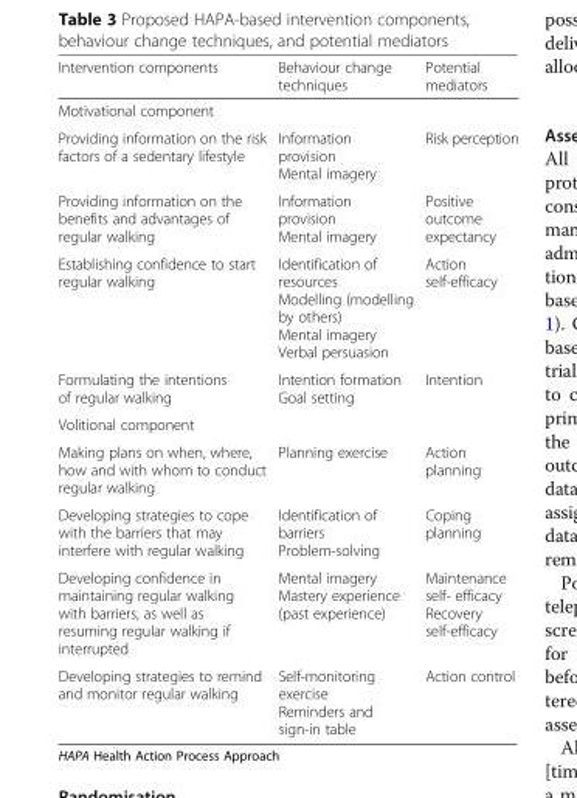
<table><thead><tr><td>Intervention components</td><td>Behaviour change techniques</td><td>Potential mediators</td></tr></thead><tbody><tr><td colspan="3">Motivational component</td></tr><tr><td>Providing information on the risk factors of a sedentary lifestyle</td><td>Information provision Mental imagery</td><td>Risk perception</td></tr><tr><td>Providing information on the benefits and advantages of regular walking</td><td>Information provision Mental imagery</td><td>Positive outcome expectancy</td></tr><tr><td>Establishing confidence to start regular walking</td><td>Identification of resources Modelling (modelling by others) Mental imagery Verbal persuasion</td><td>Action self-efficacy</td></tr><tr><td>Formulating the intentions of regular walking</td><td>Intention formation Goal setting</td><td>Intention</td></tr><tr><td colspan="3">Volitional component</td></tr><tr><td>Making plans on when, where, how and with whom to conduct regular walking</td><td>Planning exercise</td><td>Action planning</td></tr><tr><td>Developing strategies to cope with the barriers that may interfere with regular walking</td><td>Identification of barriers Problem-solving</td><td>Coping planning</td></tr><tr><td>Developing confidence in maintaining regular walking with barriers, as well as resuming regular walking if interrupted</td><td>Mental imagery Mastery experience (past experience)</td><td>Maintenance self- efficacy Recovery self-efficacy</td></tr><tr><td>Developing strategies to remind and monitor regular walking</td><td>Self-monitoring exercise Reminders and sign-in table</td><td>Action control</td></tr></tbody></table>